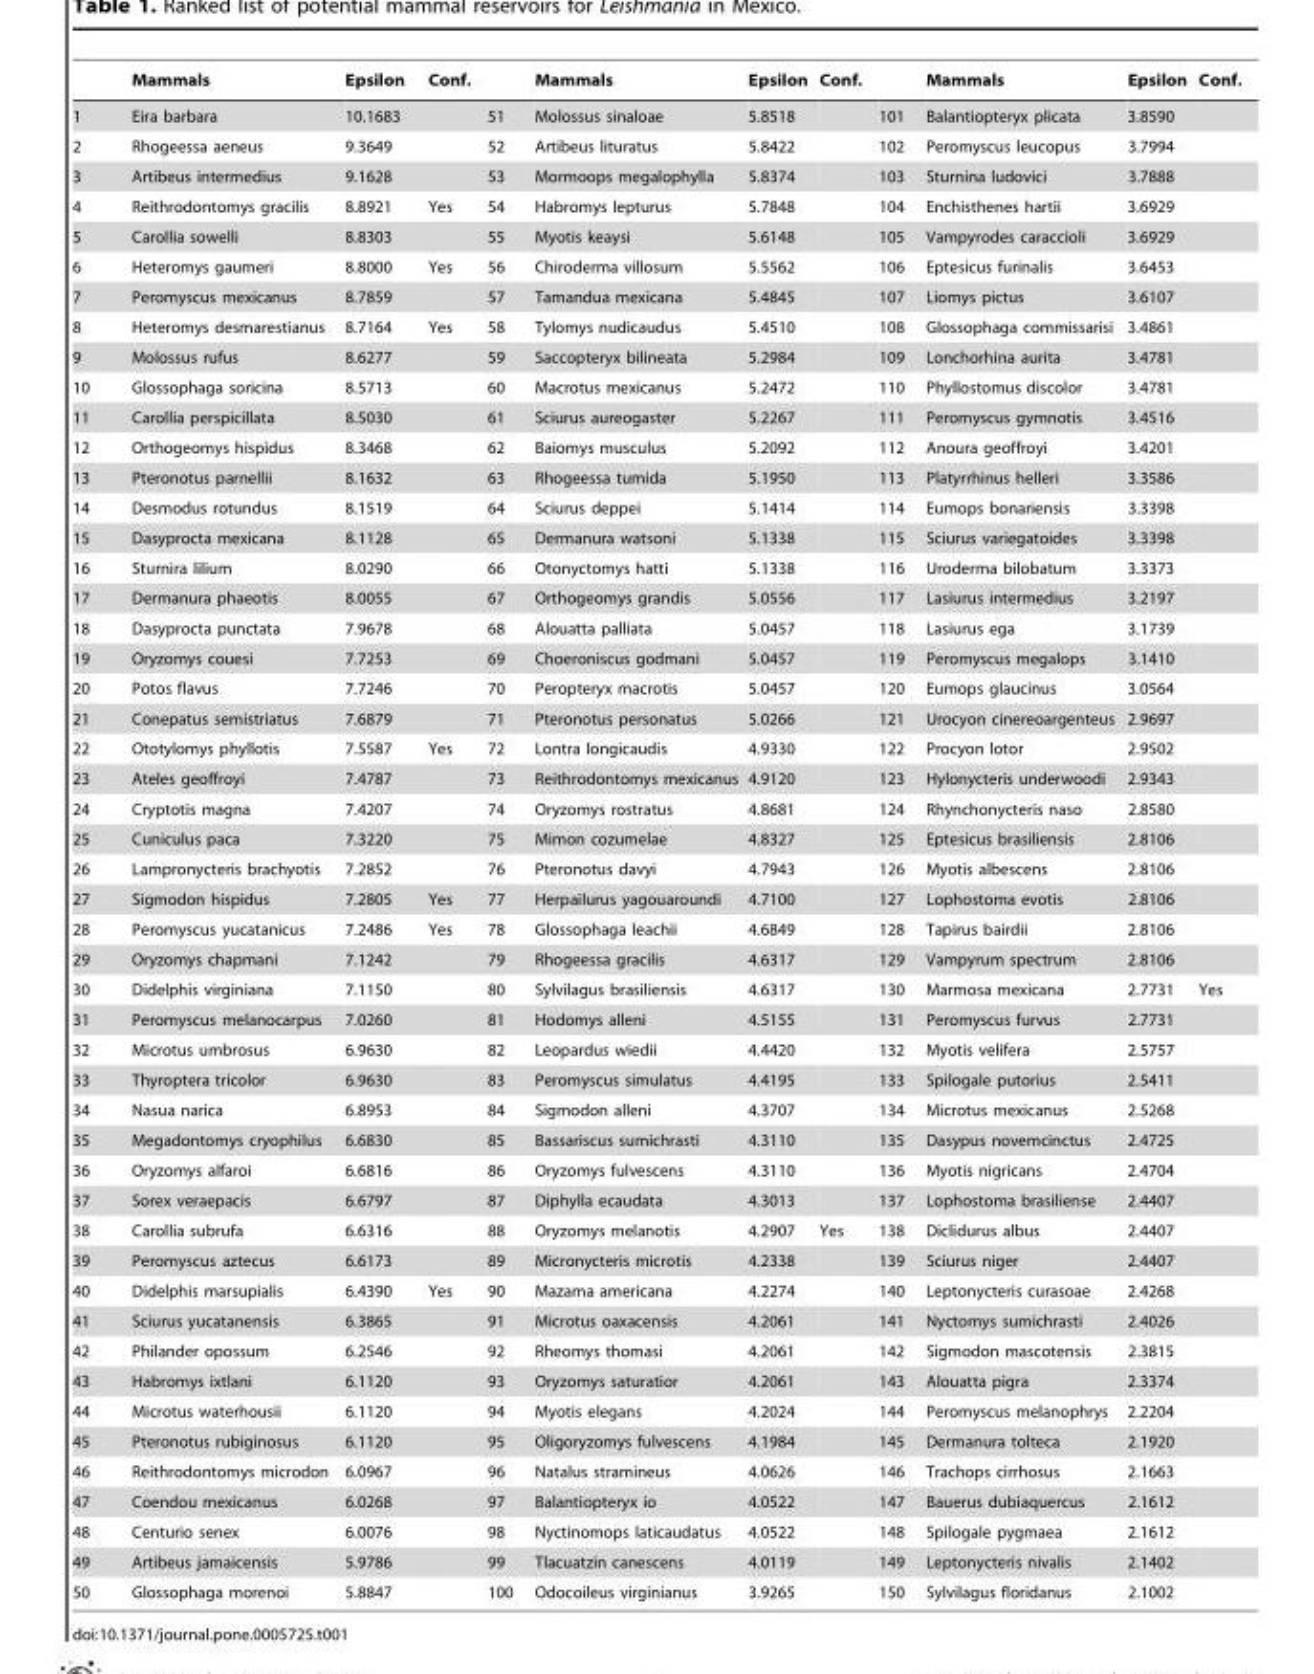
<table><thead><tr><td></td><td>Mammals</td><td>Epsilon</td><td>Conf.</td><td></td><td>Mammals</td><td>Epsilon</td><td>Conf.</td><td></td><td>Mammals</td><td>Epsilon</td><td>Conf.</td></tr></thead><tbody><tr><td>1</td><td>Eira barbara</td><td>10.1683</td><td></td><td>51</td><td>Molossus sinaloae</td><td>5.8518</td><td></td><td>101</td><td>Balantiopteryx plicata</td><td>3.8590</td><td></td></tr><tr><td>2</td><td>Rhogeessa aeneus</td><td>9.3649</td><td></td><td>52</td><td>Artibeus lituratus</td><td>5.8422</td><td></td><td>102</td><td>Peromyscus leucopus</td><td>3.7994</td><td></td></tr><tr><td>3</td><td>Artibeus intermedius</td><td>9.1628</td><td></td><td>53</td><td>Mormoops megalophylla</td><td>5.8374</td><td></td><td>103</td><td>Sturnina ludovici</td><td>3.7888</td><td></td></tr><tr><td>4</td><td>Reithrodontomys gracilis</td><td>8.8921</td><td>Yes</td><td>54</td><td>Habromys lepturus</td><td>5.7848</td><td></td><td>104</td><td>Enchisthenes hartii</td><td>3.6929</td><td></td></tr><tr><td>5</td><td>Carollia sowelli</td><td>8.8303</td><td></td><td>55</td><td>Myotis keaysi</td><td>5.6148</td><td></td><td>105</td><td>Vampyrodes caraccioli</td><td>3.6929</td><td></td></tr><tr><td>6</td><td>Heteromys gaumeri</td><td>8.8000</td><td>Yes</td><td>56</td><td>Chiroderma villosum</td><td>5.5562</td><td></td><td>106</td><td>Eptesicus furinalis</td><td>3.6453</td><td></td></tr><tr><td>7</td><td>Peromyscus mexicanus</td><td>8.7859</td><td></td><td>57</td><td>Tamandua mexicana</td><td>5.4845</td><td></td><td>107</td><td>Liomys pictus</td><td>3.6107</td><td></td></tr><tr><td>8</td><td>Heteromys desmarestianus</td><td>8.7164</td><td>Yes</td><td>58</td><td>Tylomys nudicaudus</td><td>5.4510</td><td></td><td>108</td><td>Glossophaga commissarisi</td><td>3.4861</td><td></td></tr><tr><td>9</td><td>Molossus rufus</td><td>8.6277</td><td></td><td>59</td><td>Saccopteryx bilineata</td><td>5.2984</td><td></td><td>109</td><td>Lonchorhina aurita</td><td>3.4781</td><td></td></tr><tr><td>10</td><td>Glossophaga soricina</td><td>8.5713</td><td></td><td>60</td><td>Macrotus mexicanus</td><td>5.2472</td><td></td><td>110</td><td>Phyllostomus discolor</td><td>3.4781</td><td></td></tr><tr><td>11</td><td>Carollia perspicillata</td><td>8.5030</td><td></td><td>61</td><td>Sciurus aureogaster</td><td>5.2267</td><td></td><td>111</td><td>Peromyscus gymnotis</td><td>3.4516</td><td></td></tr><tr><td>12</td><td>Orthogeomys hispidus</td><td>8.3468</td><td></td><td>62</td><td>Baiomys musculus</td><td>5.2092</td><td></td><td>112</td><td>Anoura geoffroyi</td><td>3.4201</td><td></td></tr><tr><td>13</td><td>Pteronotus parnellii</td><td>8.1632</td><td></td><td>63</td><td>Rhogeessa tumida</td><td>5.1950</td><td></td><td>113</td><td>Platyrrhinus helleri</td><td>3.3586</td><td></td></tr><tr><td>14</td><td>Desmodus rotundus</td><td>8.1519</td><td></td><td>64</td><td>Sciurus deppei</td><td>5.1414</td><td></td><td>114</td><td>Eumops bonariensis</td><td>3.3398</td><td></td></tr><tr><td>15</td><td>Dasyprocta mexicana</td><td>8.1128</td><td></td><td>65</td><td>Dermanura watsoni</td><td>5.1338</td><td></td><td>115</td><td>Sciurus variegatoides</td><td>3.3398</td><td></td></tr><tr><td>16</td><td>Sturnira lilium</td><td>8.0290</td><td></td><td>66</td><td>Otonyctomys hatti</td><td>5.1338</td><td></td><td>116</td><td>Uroderma bilobatum</td><td>3.3373</td><td></td></tr><tr><td>17</td><td>Dermanura phaeotis</td><td>8.0055</td><td></td><td>67</td><td>Orthogeomys grandis</td><td>5.0556</td><td></td><td>117</td><td>Lasiurus intermedius</td><td>3.2197</td><td></td></tr><tr><td>18</td><td>Dasyprocta punctata</td><td>7.9678</td><td></td><td>68</td><td>Alouatta palliata</td><td>5.0457</td><td></td><td>118</td><td>Lasiurus ega</td><td>3.1739</td><td></td></tr><tr><td>19</td><td>Oryzomys couesi</td><td>7.7253</td><td></td><td>69</td><td>Choeroniscus godmani</td><td>5.0457</td><td></td><td>119</td><td>Peromyscus megalops</td><td>3.1410</td><td></td></tr><tr><td>20</td><td>Potos flavus</td><td>7.7246</td><td></td><td>70</td><td>Peropteryx macrotis</td><td>5.0457</td><td></td><td>120</td><td>Eumops glaucinus</td><td>3.0564</td><td></td></tr><tr><td>21</td><td>Conepatus semistriatus</td><td>7.6879</td><td></td><td>71</td><td>Pteronotus personatus</td><td>5.0266</td><td></td><td>121</td><td>Urocyon cinereoargenteus</td><td>2.9697</td><td></td></tr><tr><td>22</td><td>Ototylomys phyllotis</td><td>7.5587</td><td>Yes</td><td>72</td><td>Lontra longicaudis</td><td>4.9330</td><td></td><td>122</td><td>Procyon lotor</td><td>2.9502</td><td></td></tr><tr><td>23</td><td>Ateles geoffroyi</td><td>7.4787</td><td></td><td>73</td><td>Reithrodontomys mexicanus</td><td>4.9120</td><td></td><td>123</td><td>Hylonycteris underwoodi</td><td>2.9343</td><td></td></tr><tr><td>24</td><td>Cryptotis magna</td><td>7.4207</td><td></td><td>74</td><td>Oryzomys rostratus</td><td>4.8681</td><td></td><td>124</td><td>Rhynchonycteris naso</td><td>2.8580</td><td></td></tr><tr><td>25</td><td>Cuniculus paca</td><td>7.3220</td><td></td><td>75</td><td>Mimon cozumelae</td><td>4.8327</td><td></td><td>125</td><td>Eptesicus brasiliensis</td><td>2.8106</td><td></td></tr><tr><td>26</td><td>Lampronycteris brachyotis</td><td>7.2852</td><td></td><td>76</td><td>Pteronotus davyi</td><td>4.7943</td><td></td><td>126</td><td>Myotis albescens</td><td>2.8106</td><td></td></tr><tr><td>27</td><td>Sigmodon hispidus</td><td>7.2805</td><td>Yes</td><td>77</td><td>Herpailurus yagouaroundi</td><td>4.7100</td><td></td><td>127</td><td>Lophostoma evotis</td><td>2.8106</td><td></td></tr><tr><td>28</td><td>Peromyscus yucatanicus</td><td>7.2486</td><td>Yes</td><td>78</td><td>Glossophaga leachii</td><td>4.6849</td><td></td><td>128</td><td>Tapirus bairdii</td><td>2.8106</td><td></td></tr><tr><td>29</td><td>Oryzomys chapmani</td><td>7.1242</td><td></td><td>79</td><td>Rhogeessa gracilis</td><td>4.6317</td><td></td><td>129</td><td>Vampyrum spectrum</td><td>2.8106</td><td></td></tr><tr><td>30</td><td>Didelphis virginiana</td><td>7.1150</td><td></td><td>80</td><td>Sylvilagus brasiliensis</td><td>4.6317</td><td></td><td>130</td><td>Marmosa mexicana</td><td>2.7731</td><td>Yes</td></tr><tr><td>31</td><td>Peromyscus melanocarpus</td><td>7.0260</td><td></td><td>81</td><td>Hodomys alleni</td><td>4.5155</td><td></td><td>131</td><td>Peromyscus furvus</td><td>2.7731</td><td></td></tr><tr><td>32</td><td>Microtus umbrosus</td><td>6.9630</td><td></td><td>82</td><td>Leopardus wiedii</td><td>4.4420</td><td></td><td>132</td><td>Myotis velifera</td><td>2.5757</td><td></td></tr><tr><td>33</td><td>Thyroptera tricolor</td><td>6.9630</td><td></td><td>83</td><td>Peromyscus simulatus</td><td>4.4195</td><td></td><td>133</td><td>Spilogale putorius</td><td>2.5411</td><td></td></tr><tr><td>34</td><td>Nasua narica</td><td>6.8953</td><td></td><td>84</td><td>Sigmodon alleni</td><td>4.3707</td><td></td><td>134</td><td>Microtus mexicanus</td><td>2.5268</td><td></td></tr><tr><td>35</td><td>Megadontomys cryophilus</td><td>6.6830</td><td></td><td>85</td><td>Bassariscus sumichrasti</td><td>4.3110</td><td></td><td>135</td><td>Dasypus novemcinctus</td><td>2.4725</td><td></td></tr><tr><td>36</td><td>Oryzomys alfaroi</td><td>6.6816</td><td></td><td>86</td><td>Oryzomys fulvescens</td><td>4.3110</td><td></td><td>136</td><td>Myotis nigricans</td><td>2.4704</td><td></td></tr><tr><td>37</td><td>Sorex veraepacis</td><td>6.6797</td><td></td><td>87</td><td>Diphylla ecaudata</td><td>4.3013</td><td></td><td>137</td><td>Lophostoma brasiliense</td><td>2.4407</td><td></td></tr><tr><td>38</td><td>Carollia subrufa</td><td>6.6316</td><td></td><td>88</td><td>Oryzomys melanotis</td><td>4.2907</td><td>Yes</td><td>138</td><td>Diclidurus albus</td><td>2.4407</td><td></td></tr><tr><td>39</td><td>Peromyscus aztecus</td><td>6.6173</td><td></td><td>89</td><td>Micronycteris microtis</td><td>4.2338</td><td></td><td>139</td><td>Sciurus niger</td><td>2.4407</td><td></td></tr><tr><td>40</td><td>Didelphis marsupialis</td><td>6.4390</td><td>Yes</td><td>90</td><td>Mazama americana</td><td>4.2274</td><td></td><td>140</td><td>Leptonycteris curasoae</td><td>2.4268</td><td></td></tr><tr><td>41</td><td>Sciurus yucatanensis</td><td>6.3865</td><td></td><td>91</td><td>Microtus oaxacensis</td><td>4.2061</td><td></td><td>141</td><td>Nyctomys sumichrasti</td><td>2.4026</td><td></td></tr><tr><td>42</td><td>Philander opossum</td><td>6.2546</td><td></td><td>92</td><td>Rheomys thomasi</td><td>4.2061</td><td></td><td>142</td><td>Sigmodon mascotensis</td><td>2.3815</td><td></td></tr><tr><td>43</td><td>Habromys ixtlani</td><td>6.1120</td><td></td><td>93</td><td>Oryzomys saturatior</td><td>4.2061</td><td></td><td>143</td><td>Alouatta pigra</td><td>2.3374</td><td></td></tr><tr><td>44</td><td>Microtus waterhousii</td><td>6.1120</td><td></td><td>94</td><td>Myotis elegans</td><td>4.2024</td><td></td><td>144</td><td>Peromyscus melanophrys</td><td>2.2204</td><td></td></tr><tr><td>45</td><td>Pteronotus rubiginosus</td><td>6.1120</td><td></td><td>95</td><td>Oligoryzomys fulvescens</td><td>4.1984</td><td></td><td>145</td><td>Dermanura tolteca</td><td>2.1920</td><td></td></tr><tr><td>46</td><td>Reithrodontomys microdon</td><td>6.0967</td><td></td><td>96</td><td>Natalus stramineus</td><td>4.0626</td><td></td><td>146</td><td>Trachops cirrhosus</td><td>2.1663</td><td></td></tr><tr><td>47</td><td>Coendou mexicanus</td><td>6.0268</td><td></td><td>97</td><td>Balantiopteryx io</td><td>4.0522</td><td></td><td>147</td><td>Bauerus dubiaquercus</td><td>2.1612</td><td></td></tr><tr><td>48</td><td>Centurio senex</td><td>6.0076</td><td></td><td>98</td><td>Nyctinomops laticaudatus</td><td>4.0522</td><td></td><td>148</td><td>Spilogale pygmaea</td><td>2.1612</td><td></td></tr><tr><td>49</td><td>Artibeus jamaicensis</td><td>5.9786</td><td></td><td>99</td><td>Tlacuatzin canescens</td><td>4.0119</td><td></td><td>149</td><td>Leptonycteris nivalis</td><td>2.1402</td><td></td></tr><tr><td>50</td><td>Glossophaga morenoi</td><td>5.8847</td><td></td><td>100</td><td>Odocoileus virginianus</td><td>3.9265</td><td></td><td>150</td><td>Sylvilagus floridanus</td><td>2.1002</td><td></td></tr></tbody></table>